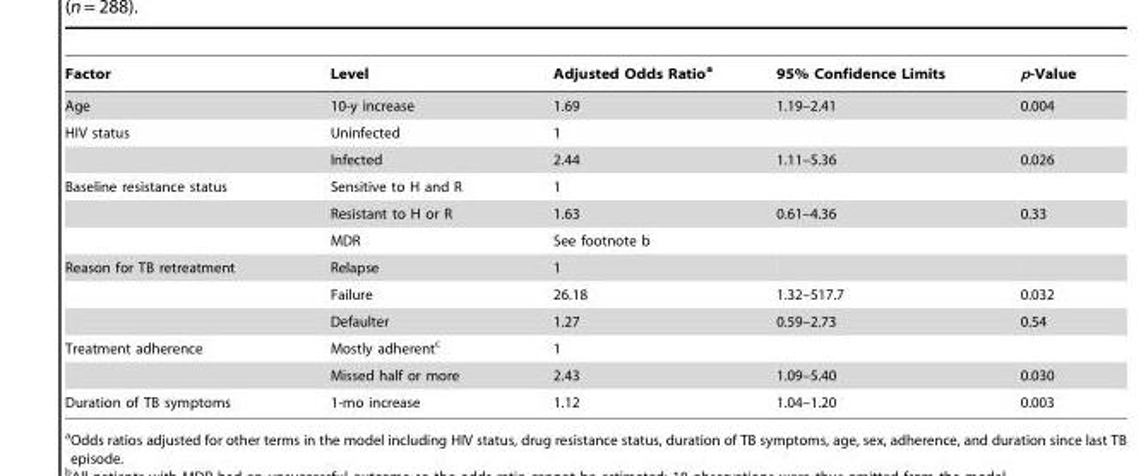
<table><thead><tr><td>Factor</td><td>Level</td><td>Adjusted Odds Ratio<sup>a</sup></td><td>95% Confidence Limits</td><td>p-Value</td></tr></thead><tbody><tr><td>Age</td><td>10-y increase</td><td>1.69</td><td>1.19–2.41</td><td>0.004</td></tr><tr><td rowspan="2">HIV status</td><td>Uninfected</td><td>1</td><td></td><td></td></tr><tr><td>Infected</td><td>2.44</td><td>1.11–5.36</td><td>0.026</td></tr><tr><td rowspan="3">Baseline resistance status</td><td>Sensitive to H and R</td><td>1</td><td></td><td></td></tr><tr><td>Resistant to H or R</td><td>1.63</td><td>0.61–4.36</td><td>0.33</td></tr><tr><td>MDR</td><td>See footnote b</td><td></td><td></td></tr><tr><td rowspan="3">Reason for TB retreatment</td><td>Relapse</td><td>1</td><td></td><td></td></tr><tr><td>Failure</td><td>26.18</td><td>1.32–517.7</td><td>0.032</td></tr><tr><td>Defaulter</td><td>1.27</td><td>0.59–2.73</td><td>0.54</td></tr><tr><td rowspan="2">Treatment adherence</td><td>Mostly adherent<sup>c</sup></td><td>1</td><td></td><td></td></tr><tr><td>Missed half or more</td><td>2.43</td><td>1.09–5.40</td><td>0.030</td></tr><tr><td>Duration of TB symptoms</td><td>1-mo increase</td><td>1.12</td><td>1.04–1.20</td><td>0.003</td></tr></tbody></table>